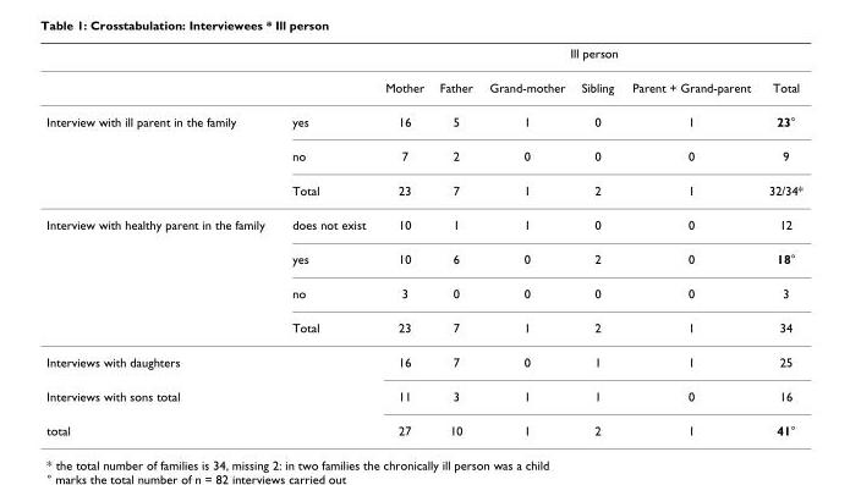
<table><thead><tr><td rowspan="2"></td><td rowspan="2"></td><td colspan="6">Ill person</td></tr><tr><td>Mother</td><td>Father</td><td>Grand-mother</td><td>Sibling</td><td>Parent + Grand-parent</td><td>Total</td></tr></thead><tbody><tr><td rowspan="3">Interview with ill parent in the family</td><td>yes</td><td>16</td><td>5</td><td>1</td><td>0</td><td>1</td><td>23°</td></tr><tr><td>no</td><td>7</td><td>2</td><td>0</td><td>0</td><td>0</td><td>9</td></tr><tr><td>Total</td><td>23</td><td>7</td><td>1</td><td>2</td><td>1</td><td>32/34*</td></tr><tr><td rowspan="4">Interview with healthy parent in the family</td><td>does not exist</td><td>10</td><td>1</td><td>1</td><td>0</td><td>0</td><td>12</td></tr><tr><td>yes</td><td>10</td><td>6</td><td>0</td><td>2</td><td>0</td><td>18°</td></tr><tr><td>no</td><td>3</td><td>0</td><td>0</td><td>0</td><td>0</td><td>3</td></tr><tr><td>Total</td><td>23</td><td>7</td><td>1</td><td>2</td><td>1</td><td>34</td></tr><tr><td colspan="2">Interviews with daughters</td><td>16</td><td>7</td><td>0</td><td>1</td><td>1</td><td>25</td></tr><tr><td colspan="2">Interviews with sons total</td><td>11</td><td>3</td><td>1</td><td>1</td><td>0</td><td>16</td></tr><tr><td colspan="2">total</td><td>27</td><td>10</td><td>1</td><td>2</td><td>1</td><td>41°</td></tr></tbody></table>